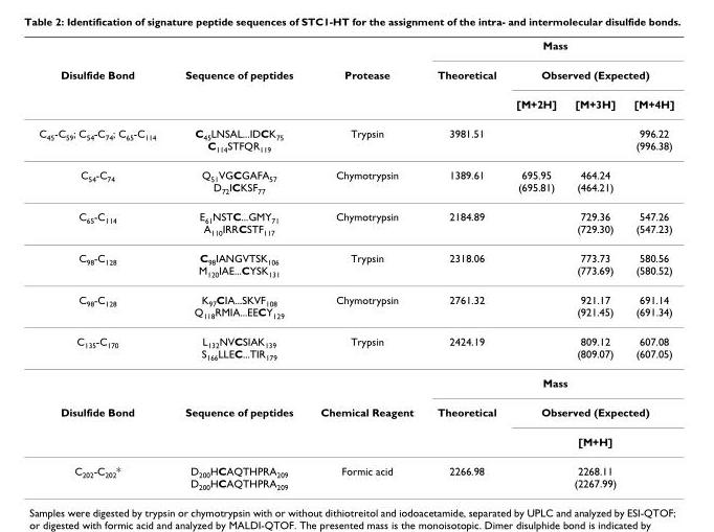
<table><thead><tr><td rowspan="3">Disulfide Bond</td><td rowspan="3">Sequence of peptides</td><td rowspan="3">Protease</td><td colspan="4">Mass</td></tr><tr><td rowspan="2">Theoretical</td><td colspan="3">Observed (Expected)</td></tr><tr><td>[M+2H]</td><td>[M+3H]</td><td>[M+4H]</td></tr></thead><tbody><tr><td>C<sub>45</sub>-C<sub>59</sub>; C<sub>54</sub>-C<sub>74</sub>; C<sub>65</sub>-C<sub>114</sub></td><td>C<sub>45</sub>LNSAL...IDCK<sub>75</sub> C<sub>114</sub>STFQR<sub>119</sub></td><td>Trypsin</td><td>3981.51</td><td></td><td></td><td>996.22 (996.38)</td></tr><tr><td>C<sub>54</sub>-C<sub>74</sub></td><td>Q<sub>51</sub>VGCGAFA<sub>57</sub> D<sub>72</sub>ICKSF<sub>77</sub></td><td>Chymotrypsin</td><td>1389.61</td><td>695.95 (695.81)</td><td>464.24 (464.21)</td><td></td></tr><tr><td>C<sub>65</sub>-C<sub>114</sub></td><td>E<sub>61</sub>NSTC...GMY<sub>71</sub> A<sub>110</sub>IRRCSTF<sub>117</sub></td><td>Chymotrypsin</td><td>2184.89</td><td></td><td>729.36 (729.30)</td><td>547.26 (547.23)</td></tr><tr><td>C<sub>98</sub>-C<sub>128</sub></td><td>C<sub>98</sub>IANGVTSK<sub>106</sub> M<sub>120</sub>IAE...CYSK<sub>131</sub></td><td>Trypsin</td><td>2318.06</td><td></td><td>773.73 (773.69)</td><td>580.56 (580.52)</td></tr><tr><td>C<sub>98</sub>-C<sub>128</sub></td><td>K<sub>97</sub>CIA...SKVF<sub>108</sub> Q<sub>118</sub>RMIA...EECY<sub>129</sub></td><td>Chymotrypsin</td><td>2761.32</td><td></td><td>921.17 (921.45)</td><td>691.14 (691.34)</td></tr><tr><td rowspan="2">C<sub>135</sub>-C<sub>170</sub></td><td>L<sub>132</sub>NVCSIAK<sub>139</sub> S<sub>166</sub>LLEC...TIR<sub>179</sub></td><td>Trypsin</td><td>2424.19</td><td></td><td>809.12 (809.07)</td><td>607.08 (607.05)</td></tr><tr><td></td><td></td><td colspan="4">Mass</td></tr><tr><td rowspan="2">Disulfide Bond</td><td>Sequence of peptides</td><td>Chemical Reagent</td><td>Theoretical</td><td colspan="3">Observed (Expected)</td></tr><tr><td></td><td></td><td></td><td colspan="3">[M+H]</td></tr><tr><td>C<sub>202</sub>-C<sub>202</sub>*</td><td>D<sub>200</sub>HCAQTHPRA<sub>209</sub> D<sub>200</sub>HCAQTHPRA<sub>209</sub></td><td>Formic acid</td><td>2266.98</td><td colspan="3">2268.11 (2267.99)</td></tr></tbody></table>